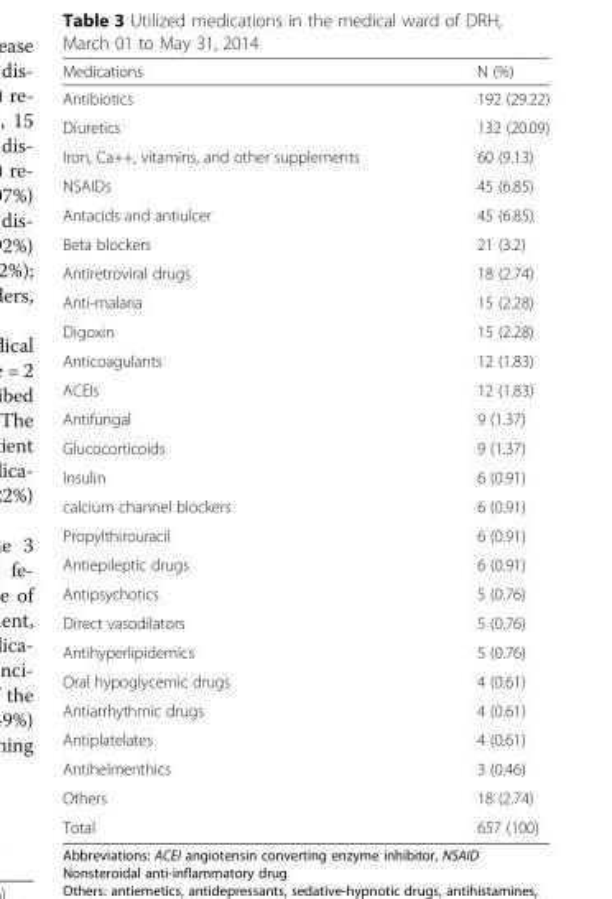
<table><thead><tr><td>Medications</td><td>N (%)</td></tr></thead><tbody><tr><td>Antibiotics</td><td>192 (29.22)</td></tr><tr><td>Diuretics</td><td>132 (20.09)</td></tr><tr><td>Iron, Ca++, vitamins, and other supplements</td><td>60 (9.13)</td></tr><tr><td>NSAIDs</td><td>45 (6.85)</td></tr><tr><td>Antacids and antiulcer</td><td>45 (6.85)</td></tr><tr><td>Beta blockers</td><td>21 (3.2)</td></tr><tr><td>Antiretroviral drugs</td><td>18 (2.74)</td></tr><tr><td>Anti-malaria</td><td>15 (2.28)</td></tr><tr><td>Digoxin</td><td>15 (2.28)</td></tr><tr><td>Anticoagulants</td><td>12 (1.83)</td></tr><tr><td>ACEIs</td><td>12 (1.83)</td></tr><tr><td>Antifungal</td><td>9 (1.37)</td></tr><tr><td>Glucocorticoids</td><td>9 (1.37)</td></tr><tr><td>Insulin</td><td>6 (0.91)</td></tr><tr><td>calcium channel blockers</td><td>6 (0.91)</td></tr><tr><td>Propylthirouracil</td><td>6 (0.91)</td></tr><tr><td>Antiepileptic drugs</td><td>6 (0.91)</td></tr><tr><td>Antipsychotics</td><td>5 (0.76)</td></tr><tr><td>Direct vasodilators</td><td>5 (0.76)</td></tr><tr><td>Antihyperlipidemics</td><td>5 (0.76)</td></tr><tr><td>Oral hypoglycemic drugs</td><td>4 (0.61)</td></tr><tr><td>Antiarrhythmic drugs</td><td>4 (0.61)</td></tr><tr><td>Antiplatelates</td><td>4 (0.61)</td></tr><tr><td>Antihelmenthics</td><td>3 (0.46)</td></tr><tr><td>Others</td><td>18 (2.74)</td></tr><tr><td>Total</td><td>657 (100)</td></tr></tbody></table>